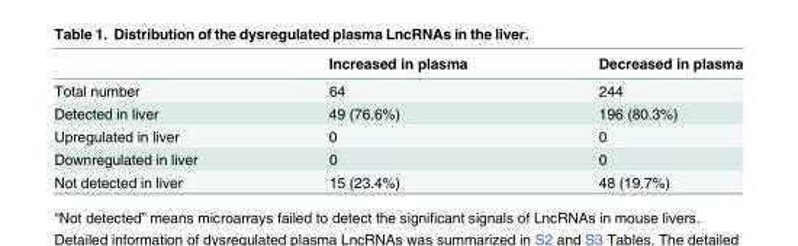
<table><thead><tr><td></td><td>Increased in plasma</td><td>Decreased in plasma</td></tr></thead><tbody><tr><td>Total number</td><td>64</td><td>244</td></tr><tr><td>Detected in liver</td><td>49 (76.6%)</td><td>196 (80.3%)</td></tr><tr><td>Upregulated in liver</td><td>0</td><td>0</td></tr><tr><td>Downregulated in liver</td><td>0</td><td>0</td></tr><tr><td>Not detected in liver</td><td>15 (23.4%)</td><td>48 (19.7%)</td></tr></tbody></table>